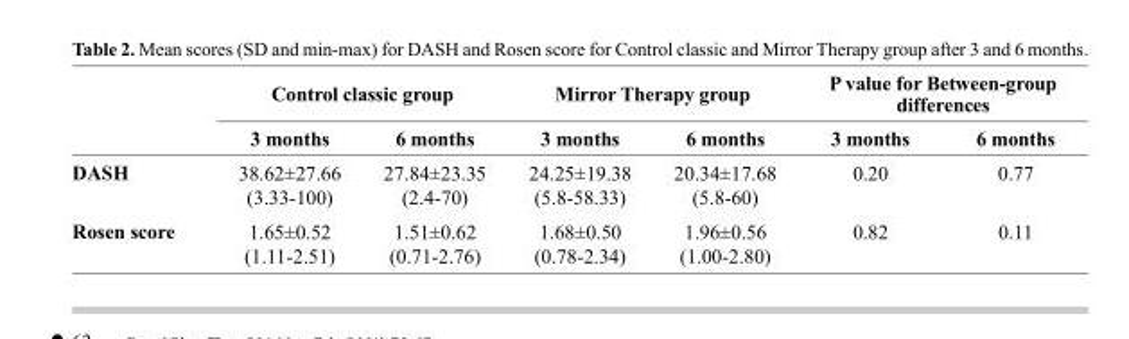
<table><thead><tr><td rowspan="2"></td><td colspan="2">Control classic group</td><td colspan="2">Mirror Therapy group</td><td colspan="2">P value for Between-group differences</td></tr><tr><td>3 months</td><td>6 months</td><td>3 months</td><td>6 months</td><td>3 months</td><td>6 months</td></tr></thead><tbody><tr><td>DASH</td><td>38.62±27.66 (3.33-100)</td><td>27.84±23.35 (2.4-70)</td><td>24.25±19.38 (5.8-58.33)</td><td>20.34±17.68 (5.8-60)</td><td>0.20</td><td>0.77</td></tr><tr><td>Rosen score</td><td>1.65±0.52 (1.11-2.51)</td><td>1.51±0.62 (0.71-2.76)</td><td>1.68±0.50 (0.78-2.34)</td><td>1.96±0.56 (1.00-2.80)</td><td>0.82</td><td>0.11</td></tr></tbody></table>